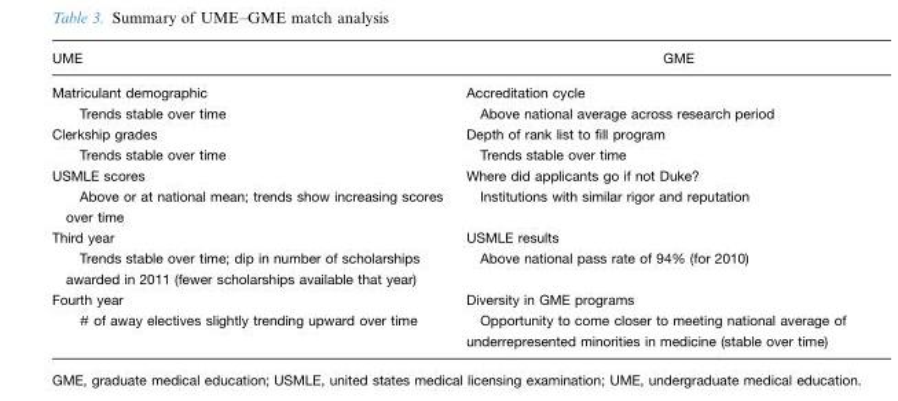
<table><thead><tr><td>UME</td><td>GME</td></tr></thead><tbody><tr><td>Matriculant demographic Trends stable over time</td><td>Accreditation cycle Above national average across research period</td></tr><tr><td>Clerkship grades Trends stable over time</td><td>Depth of rank list to fill program Trends stable over time</td></tr><tr><td>USMLE scores Above or at national mean; trends show increasing scores over time</td><td>Where did applicants go if not Duke? Institutions with similar rigor and reputation</td></tr><tr><td>Third year Trends stable over time; dip in number of scholarships awarded in 2011 (fewer scholarships available that year)</td><td>USMLE results Above national pass rate of 94% (for 2010)</td></tr><tr><td>Fourth year # of away electives slightly trending upward over time</td><td>Diversity in GME programs Opportunity to come closer to meeting national average of underrepresented minorities in medicine (stable over time)</td></tr></tbody></table>